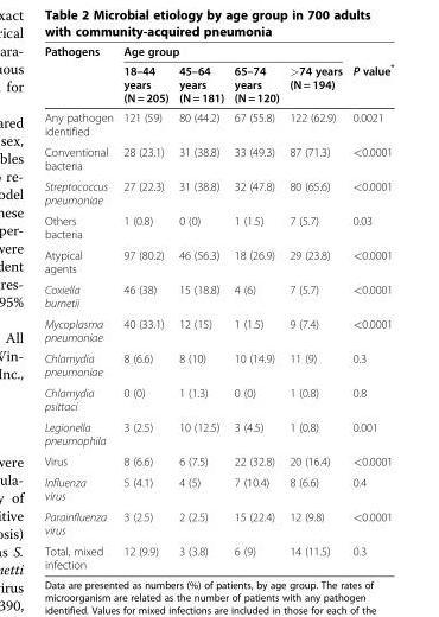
<table><thead><tr><td rowspan="2">Pathogens</td><td colspan="4">Age group</td><td rowspan="2">P value*</td></tr><tr><td>18–44 years (N = 205)</td><td>45–64 years (N = 181)</td><td>65–74 years (N = 120)</td><td>&gt;74 years (N = 194)</td></tr></thead><tbody><tr><td>Any pathogen identified</td><td>121 (59)</td><td>80 (44.2)</td><td>67 (55.8)</td><td>122 (62.9)</td><td>0.0021</td></tr><tr><td>Conventional bacteria</td><td>28 (23.1)</td><td>31 (38.8)</td><td>33 (49.3)</td><td>87 (71.3)</td><td>&lt;0.0001</td></tr><tr><td>Streptococcus pneumoniae</td><td>27 (22.3)</td><td>31 (38.8)</td><td>32 (47.8)</td><td>80 (65.6)</td><td>&lt;0.0001</td></tr><tr><td>Others bacteria</td><td>1 (0.8)</td><td>0 (0)</td><td>1 (1.5)</td><td>7 (5.7)</td><td>0.03</td></tr><tr><td>Atypical agents</td><td>97 (80.2)</td><td>46 (56.3)</td><td>18 (26.9)</td><td>29 (23.8)</td><td>&lt;0.0001</td></tr><tr><td>Coxiella burnetii</td><td>46 (38)</td><td>15 (18.8)</td><td>4 (6)</td><td>7 (5.7)</td><td>&lt;0.0001</td></tr><tr><td>Mycoplasma pneumoniae</td><td>40 (33.1)</td><td>12 (15)</td><td>1 (1.5)</td><td>9 (7.4)</td><td>&lt;0.0001</td></tr><tr><td>Chlamydia pneumoniae</td><td>8 (6.6)</td><td>8 (10)</td><td>10 (14.9)</td><td>11 (9)</td><td>0.3</td></tr><tr><td>Chlamydia psittaci</td><td>0 (0)</td><td>1 (1.3)</td><td>0 (0)</td><td>1 (0.8)</td><td>0.8</td></tr><tr><td>Legionella pneumophila</td><td>3 (2.5)</td><td>10 (12.5)</td><td>3 (4.5)</td><td>1 (0.8)</td><td>0.001</td></tr><tr><td>Virus</td><td>8 (6.6)</td><td>6 (7.5)</td><td>22 (32.8)</td><td>20 (16.4)</td><td>&lt;0.0001</td></tr><tr><td>Influenza virus</td><td>5 (4.1)</td><td>4 (5)</td><td>7 (10.4)</td><td>8 (6.6)</td><td>0.4</td></tr><tr><td>Parainfluenza virus</td><td>3 (2.5)</td><td>2 (2.5)</td><td>15 (22.4)</td><td>12 (9.8)</td><td>&lt;0.0001</td></tr><tr><td>Total, mixed infection</td><td>12 (9.9)</td><td>3 (3.8)</td><td>6 (9)</td><td>14 (11.5)</td><td>0.3</td></tr></tbody></table>